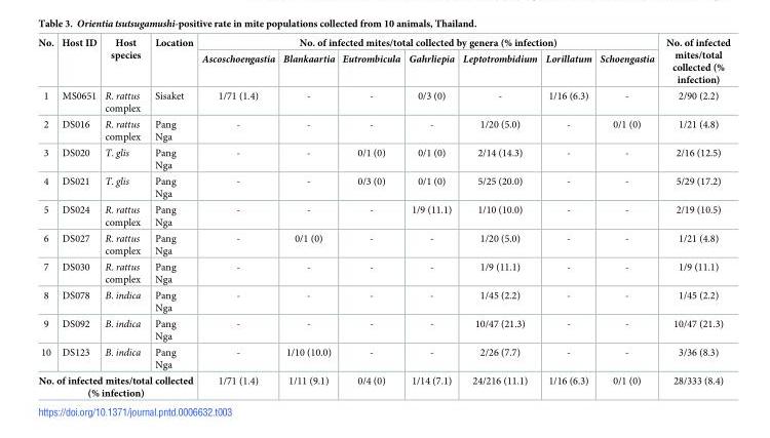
<table><thead><tr><td rowspan="2">No.</td><td rowspan="2">Host ID</td><td rowspan="2">Host species</td><td rowspan="2">Location</td><td colspan="7">No. of infected mites/total collected by genera (% infection)</td><td rowspan="2">No. of infected mites/total collected (% infection)</td></tr><tr><td>Ascoschoengastia</td><td>Blankaartia</td><td>Eutrombicula</td><td>Gahrliepia</td><td>Leptotrombidium</td><td>Lorillatum</td><td>Schoengastia</td></tr></thead><tbody><tr><td>1</td><td>MS0651</td><td>R. rattus complex</td><td>Sisaket</td><td>1/71 (1.4)</td><td>-</td><td>-</td><td>0/3 (0)</td><td>-</td><td>1/16 (6.3)</td><td>-</td><td>2/90 (2.2)</td></tr><tr><td>2</td><td>DS016</td><td>R. rattus complex</td><td>Pang Nga</td><td>-</td><td>-</td><td>-</td><td>-</td><td>1/20 (5.0)</td><td>-</td><td>0/1 (0)</td><td>1/21 (4.8)</td></tr><tr><td>3</td><td>DS020</td><td>T. glis</td><td>Pang Nga</td><td>-</td><td>-</td><td>0/1 (0)</td><td>0/1 (0)</td><td>2/14 (14.3)</td><td>-</td><td>-</td><td>2/16 (12.5)</td></tr><tr><td>4</td><td>DS021</td><td>T. glis</td><td>Pang Nga</td><td>-</td><td>-</td><td>0/3 (0)</td><td>0/1 (0)</td><td>5/25 (20.0)</td><td>-</td><td>-</td><td>5/29 (17.2)</td></tr><tr><td>5</td><td>DS024</td><td>R. rattus complex</td><td>Pang Nga</td><td>-</td><td>-</td><td>-</td><td>1/9 (11.1)</td><td>1/10 (10.0)</td><td>-</td><td>-</td><td>2/19 (10.5)</td></tr><tr><td>6</td><td>DS027</td><td>R. rattus complex</td><td>Pang Nga</td><td>-</td><td>0/1 (0)</td><td>-</td><td>-</td><td>1/20 (5.0)</td><td>-</td><td>-</td><td>1/21 (4.8)</td></tr><tr><td>7</td><td>DS030</td><td>R. rattus complex</td><td>Pang Nga</td><td>-</td><td>-</td><td>-</td><td>-</td><td>1/9 (11.1)</td><td>-</td><td>-</td><td>1/9 (11.1)</td></tr><tr><td>8</td><td>DS078</td><td>B. indica</td><td>Pang Nga</td><td>-</td><td>-</td><td>-</td><td>-</td><td>1/45 (2.2)</td><td>-</td><td>-</td><td>1/45 (2.2)</td></tr><tr><td>9</td><td>DS092</td><td>B. indica</td><td>Pang Nga</td><td>-</td><td>-</td><td>-</td><td>-</td><td>10/47 (21.3)</td><td>-</td><td>-</td><td>10/47 (21.3)</td></tr><tr><td>10</td><td>DS123</td><td>B. indica</td><td>Pang Nga</td><td>-</td><td>1/10 (10.0)</td><td>-</td><td>-</td><td>2/26 (7.7)</td><td>-</td><td>-</td><td>3/36 (8.3)</td></tr><tr><td colspan="4">No. of infected mites/total collected (% infection)</td><td>1/71 (1.4)</td><td>1/11 (9.1)</td><td>0/4 (0)</td><td>1/14 (7.1)</td><td>24/216 (11.1)</td><td>1/16 (6.3)</td><td>0/1 (0)</td><td>28/333 (8.4)</td></tr></tbody></table>